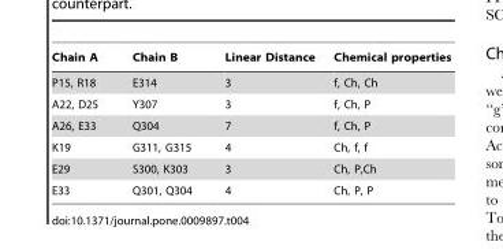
<table><thead><tr><td>Chain A</td><td>Chain B</td><td>Linear Distance</td><td>Chemical properties</td></tr></thead><tbody><tr><td>P15, R18</td><td>E314</td><td>3</td><td>f, Ch, Ch</td></tr><tr><td>A22, D25</td><td>Y307</td><td>3</td><td>f, Ch, P</td></tr><tr><td>A26, E33</td><td>Q304</td><td>7</td><td>f, Ch, P</td></tr><tr><td>K19</td><td>G311, G315</td><td>4</td><td>Ch, f, f</td></tr><tr><td>E29</td><td>S300, K303</td><td>3</td><td>Ch, P,Ch</td></tr><tr><td>E33</td><td>Q301, Q304</td><td>4</td><td>Ch, P, P</td></tr></tbody></table>